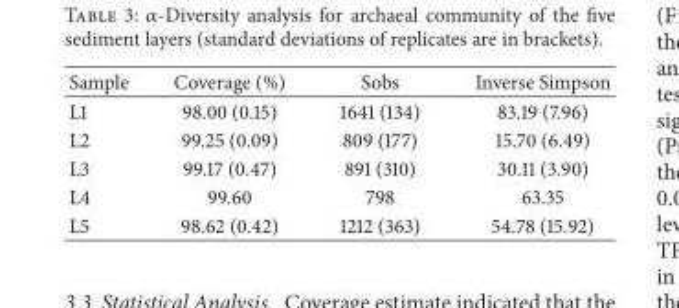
<table><thead><tr><td>Sample</td><td>Coverage (%)</td><td>Sobs</td><td>Inverse Simpson</td></tr></thead><tbody><tr><td>L1</td><td>98.00 (0.15)</td><td>1641 (134)</td><td>83.19 (7.96)</td></tr><tr><td>L2</td><td>99.25 (0.09)</td><td>809 (177)</td><td>15.70 (6.49)</td></tr><tr><td>L3</td><td>99.17 (0.47)</td><td>891 (310)</td><td>30.11 (3.90)</td></tr><tr><td>L4</td><td>99.60</td><td>798</td><td>63.35</td></tr><tr><td>L5</td><td>98.62 (0.42)</td><td>1212 (363)</td><td>54.78 (15.92)</td></tr></tbody></table>